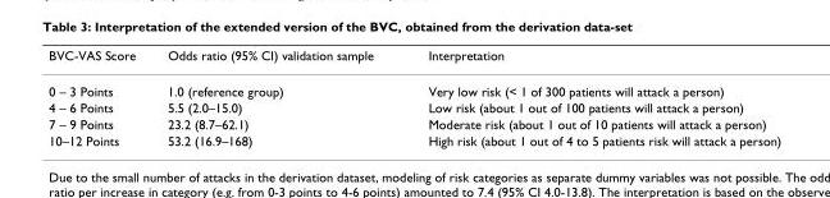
<table><thead><tr><td>BVC-VAS Score</td><td>Odds ratio (95% CI) validation sample</td><td>Interpretation</td></tr></thead><tbody><tr><td>0 – 3 Points</td><td>1.0 (reference group)</td><td>Very low risk (&lt; 1 of 300 patients will attack a person)</td></tr><tr><td>4 – 6 Points</td><td>5.5 (2.0–15.0)</td><td>Low risk (about 1 out of 100 patients will attack a person)</td></tr><tr><td>7 – 9 Points</td><td>23.2 (8.7–62.1)</td><td>Moderate risk (about 1 out of 10 patients will attack a person)</td></tr><tr><td>10–12 Points</td><td>53.2 (16.9–168)</td><td>High risk (about 1 out of 4 to 5 patients risk will attack a person)</td></tr></tbody></table>